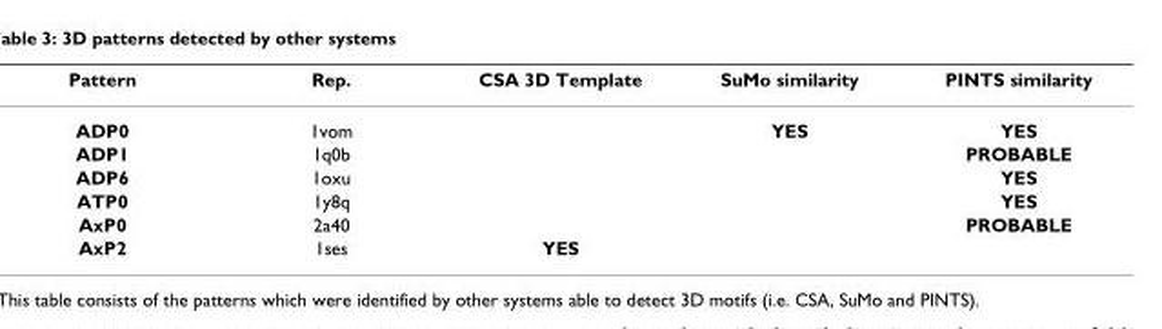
<table><thead><tr><td>Pattern</td><td>Rep.</td><td>CSA 3D Template</td><td>SuMo similarity</td><td>PINTS similarity</td></tr></thead><tbody><tr><td>ADP0</td><td>1vom</td><td></td><td>YES</td><td>YES</td></tr><tr><td>ADP1</td><td>1q0b</td><td></td><td></td><td>PROBABLE</td></tr><tr><td>ADP6</td><td>1oxu</td><td></td><td></td><td>YES</td></tr><tr><td>ATP0</td><td>1y8q</td><td></td><td></td><td>YES</td></tr><tr><td>AxP0</td><td>2a40</td><td></td><td></td><td>PROBABLE</td></tr><tr><td>AxP2</td><td>1ses</td><td>YES</td><td></td><td></td></tr></tbody></table>